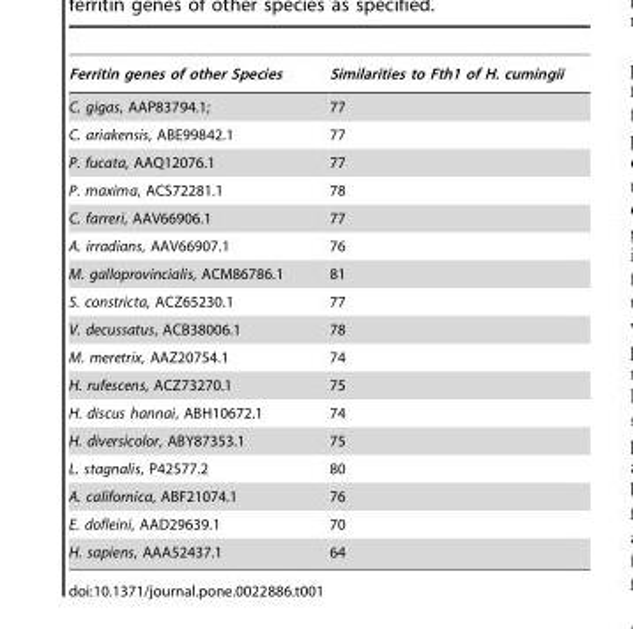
<table><thead><tr><td>Ferritin genes of other Species</td><td>Similarities to Fth1 of H. cumingii</td></tr></thead><tbody><tr><td>C. gigas, AAP83794.1;</td><td>77</td></tr><tr><td>C. ariakensis, ABE99842.1</td><td>77</td></tr><tr><td>P. fucata, AAQ12076.1</td><td>77</td></tr><tr><td>P. maxima, ACS72281.1</td><td>78</td></tr><tr><td>C. farreri, AAV66906.1</td><td>77</td></tr><tr><td>A. irradians, AAV66907.1</td><td>76</td></tr><tr><td>M. galloprovincialis, ACM86786.1</td><td>81</td></tr><tr><td>S. constricta, ACZ65230.1</td><td>77</td></tr><tr><td>V. decussatus, ACB38006.1</td><td>78</td></tr><tr><td>M. meretrix, AAZ20754.1</td><td>74</td></tr><tr><td>H. rufescens, ACZ73270.1</td><td>75</td></tr><tr><td>H. discus hannai, ABH10672.1</td><td>74</td></tr><tr><td>H. diversicolor, ABY87353.1</td><td>75</td></tr><tr><td>L. stagnalis, P42577.2</td><td>80</td></tr><tr><td>A. californica, ABF21074.1</td><td>76</td></tr><tr><td>E. dofleini, AAD29639.1</td><td>70</td></tr><tr><td>H. sapiens, AAA52437.1</td><td>64</td></tr></tbody></table>